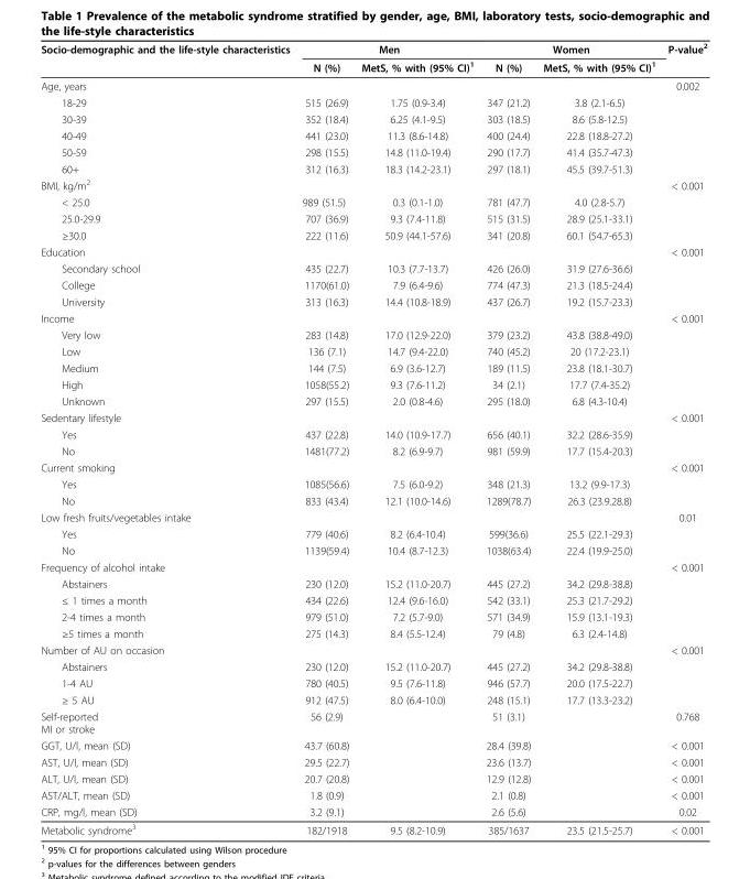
<table><thead><tr><td rowspan="2">Socio-demographic and the life-style characteristics</td><td colspan="2">Men</td><td colspan="2">Women</td><td rowspan="2">P-value<sup>2</sup></td></tr><tr><td>N (%)</td><td>MetS, % with (95% CI)<sup>1</sup></td><td>N (%)</td><td>MetS, % with (95% CI)<sup>1</sup></td></tr></thead><tbody><tr><td>Age, years</td><td></td><td></td><td></td><td></td><td>0.002</td></tr><tr><td>18-29</td><td>515 (26.9)</td><td>1.75 (0.9-3.4)</td><td>347 (21.2)</td><td>3.8 (2.1-6.5)</td><td></td></tr><tr><td>30-39</td><td>352 (18.4)</td><td>6.25 (4.1-9.5)</td><td>303 (18.5)</td><td>8.6 (5.8-12.5)</td><td></td></tr><tr><td>40-49</td><td>441 (23.0)</td><td>11.3 (8.6-14.8)</td><td>400 (24.4)</td><td>22.8 (18.8-27.2)</td><td></td></tr><tr><td>50-59</td><td>298 (15.5)</td><td>14.8 (11.0-19.4)</td><td>290 (17.7)</td><td>41.4 (35.7-47.3)</td><td></td></tr><tr><td>60+</td><td>312 (16.3)</td><td>18.3 (14.2-23.1)</td><td>297 (18.1)</td><td>45.5 (39.7-51.3)</td><td></td></tr><tr><td>BMI, kg/m<sup>2</sup></td><td></td><td></td><td></td><td></td><td>&lt; 0.001</td></tr><tr><td>&lt; 25.0</td><td>989 (51.5)</td><td>0.3 (0.1-1.0)</td><td>781 (47.7)</td><td>4.0 (2.8-5.7)</td><td></td></tr><tr><td>25.0-29.9</td><td>707 (36.9)</td><td>9.3 (7.4-11.8)</td><td>515 (31.5)</td><td>28.9 (25.1-33.1)</td><td></td></tr><tr><td>≥30.0</td><td>222 (11.6)</td><td>50.9 (44.1-57.6)</td><td>341 (20.8)</td><td>60.1 (54.7-65.3)</td><td></td></tr><tr><td>Education</td><td></td><td></td><td></td><td></td><td>&lt; 0.001</td></tr><tr><td>Secondary school</td><td>435 (22.7)</td><td>10.3 (7.7-13.7)</td><td>426 (26.0)</td><td>31.9 (27.6-36.6)</td><td></td></tr><tr><td>College</td><td>1170(61.0)</td><td>7.9 (6.4-9.6)</td><td>774 (47.3)</td><td>21.3 (18.5-24.4)</td><td></td></tr><tr><td>University</td><td>313 (16.3)</td><td>14.4 (10.8-18.9)</td><td>437 (26.7)</td><td>19.2 (15.7-23.3)</td><td></td></tr><tr><td>Income</td><td></td><td></td><td></td><td></td><td>&lt; 0.001</td></tr><tr><td>Very low</td><td>283 (14.8)</td><td>17.0 (12.9-22.0)</td><td>379 (23.2)</td><td>43.8 (38.8-49.0)</td><td></td></tr><tr><td>Low</td><td>136 (7.1)</td><td>14.7 (9.4-22.0)</td><td>740 (45.2)</td><td>20 (17.2-23.1)</td><td></td></tr><tr><td>Medium</td><td>144 (7.5)</td><td>6.9 (3.6-12.7)</td><td>189 (11.5)</td><td>23.8 (18.1-30.7)</td><td></td></tr><tr><td>High</td><td>1058(55.2)</td><td>9.3 (7.6-11.2)</td><td>34 (2.1)</td><td>17.7 (7.4-35.2)</td><td></td></tr><tr><td>Unknown</td><td>297 (15.5)</td><td>2.0 (0.8-4.6)</td><td>295 (18.0)</td><td>6.8 (4.3-10.4)</td><td></td></tr><tr><td>Sedentary lifestyle</td><td></td><td></td><td></td><td></td><td>&lt; 0.001</td></tr><tr><td>Yes</td><td>437 (22.8)</td><td>14.0 (10.9-17.7)</td><td>656 (40.1)</td><td>32.2 (28.6-35.9)</td><td></td></tr><tr><td>No</td><td>1481(77.2)</td><td>8.2 (6.9-9.7)</td><td>981 (59.9)</td><td>17.7 (15.4-20.3)</td><td></td></tr><tr><td>Current smoking</td><td></td><td></td><td></td><td></td><td>&lt; 0.001</td></tr><tr><td>Yes</td><td>1085(56.6)</td><td>7.5 (6.0-9.2)</td><td>348 (21.3)</td><td>13.2 (9.9-17.3)</td><td></td></tr><tr><td>No</td><td>833 (43.4)</td><td>12.1 (10.0-14.6)</td><td>1289(78.7)</td><td>26.3 (23.9.28.8)</td><td></td></tr><tr><td>Low fresh fruits/vegetables intake</td><td></td><td></td><td></td><td></td><td>0.01</td></tr><tr><td>Yes</td><td>779 (40.6)</td><td>8.2 (6.4-10.4)</td><td>599(36.6)</td><td>25.5 (22.1-29.3)</td><td></td></tr><tr><td>No</td><td>1139(59.4)</td><td>10.4 (8.7-12.3)</td><td>1038(63.4)</td><td>22.4 (19.9-25.0)</td><td></td></tr><tr><td>Frequency of alcohol intake</td><td></td><td></td><td></td><td></td><td>&lt; 0.001</td></tr><tr><td>Abstainers</td><td>230 (12.0)</td><td>15.2 (11.0-20.7)</td><td>445 (27.2)</td><td>34.2 (29.8-38.8)</td><td></td></tr><tr><td>≤ 1 times a month</td><td>434 (22.6)</td><td>12.4 (9.6-16.0)</td><td>542 (33.1)</td><td>25.3 (21.7-29.2)</td><td></td></tr><tr><td>2-4 times a month</td><td>979 (51.0)</td><td>7.2 (5.7-9.0)</td><td>571 (34.9)</td><td>15.9 (13.1-19.3)</td><td></td></tr><tr><td>≥5 times a month</td><td>275 (14.3)</td><td>8.4 (5.5-12.4)</td><td>79 (4.8)</td><td>6.3 (2.4-14.8)</td><td></td></tr><tr><td>Number of AU on occasion</td><td></td><td></td><td></td><td></td><td>&lt; 0.001</td></tr><tr><td>Abstainers</td><td>230 (12.0)</td><td>15.2 (11.0-20.7)</td><td>445 (27.2)</td><td>34.2 (29.8-38.8)</td><td></td></tr><tr><td>1-4 AU</td><td>780 (40.5)</td><td>9.5 (7.6-11.8)</td><td>946 (57.7)</td><td>20.0 (17.5-22.7)</td><td></td></tr><tr><td>≥ 5 AU</td><td>912 (47.5)</td><td>8.0 (6.4-10.0)</td><td>248 (15.1)</td><td>17.7 (13.3-23.2)</td><td></td></tr><tr><td>Self-reported MI or stroke</td><td>56 (2.9)</td><td></td><td>51 (3.1)</td><td></td><td>0.768</td></tr><tr><td>GGT, U/l, mean (SD)</td><td>43.7 (60.8)</td><td></td><td>28.4 (39.8)</td><td></td><td>&lt; 0.001</td></tr><tr><td>AST, U/l, mean (SD)</td><td>29.5 (22.7)</td><td></td><td>23.6 (13.7)</td><td></td><td>&lt; 0.001</td></tr><tr><td>ALT, U/l, mean (SD)</td><td>20.7 (20.8)</td><td></td><td>12.9 (12.8)</td><td></td><td>&lt; 0.001</td></tr><tr><td>AST/ALT, mean (SD)</td><td>1.8 (0.9)</td><td></td><td>2.1 (0.8)</td><td></td><td>&lt; 0.001</td></tr><tr><td>CRP, mg/l, mean (SD)</td><td>3.2 (9.1)</td><td></td><td>2.6 (5.6)</td><td></td><td>0.02</td></tr><tr><td>Metabolic syndrome<sup>3</sup></td><td>182/1918</td><td>9.5 (8.2-10.9)</td><td>385/1637</td><td>23.5 (21.5-25.7)</td><td>&lt; 0.001</td></tr></tbody></table>